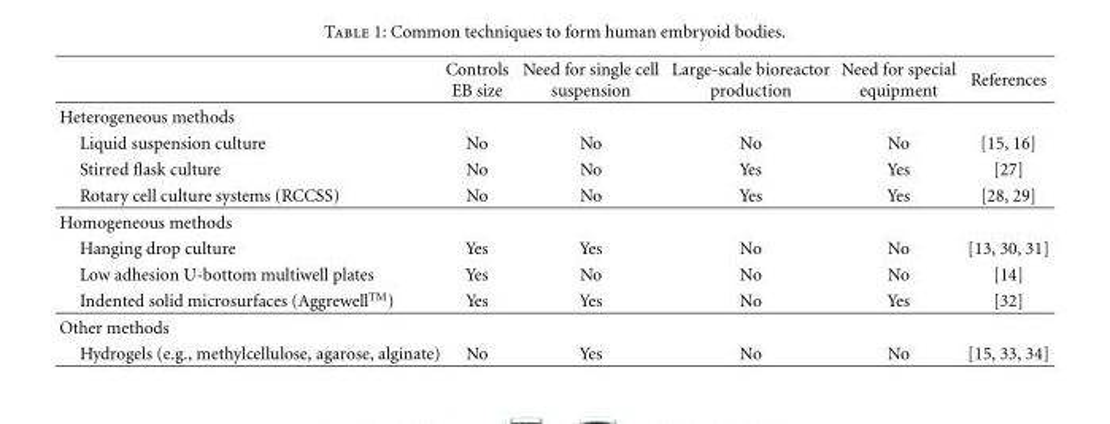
<table><thead><tr><td></td><td>Controls EB size</td><td>Need for single cell suspension</td><td>Large-scale bioreactor production</td><td>Need for special equipment</td><td>References</td></tr></thead><tbody><tr><td colspan="6">Heterogeneous methods</td></tr><tr><td>Liquid suspension culture</td><td>No</td><td>No</td><td>No</td><td>No</td><td>[15, 16]</td></tr><tr><td>Stirred flask culture</td><td>No</td><td>No</td><td>Yes</td><td>Yes</td><td>[27]</td></tr><tr><td>Rotary cell culture systems (RCCSS)</td><td>No</td><td>No</td><td>Yes</td><td>Yes</td><td>[28, 29]</td></tr><tr><td colspan="6">Homogeneous methods</td></tr><tr><td>Hanging drop culture</td><td>Yes</td><td>Yes</td><td>No</td><td>No</td><td>[13, 30, 31]</td></tr><tr><td>Low adhesion U-bottom multiwell plates</td><td>Yes</td><td>No</td><td>No</td><td>No</td><td>[14]</td></tr><tr><td>Indented solid microsurfaces (Aggrewell<sup>TM</sup>)</td><td>Yes</td><td>Yes</td><td>No</td><td>Yes</td><td>[32]</td></tr><tr><td colspan="6">Other methods</td></tr><tr><td>Hydrogels (e.g., methylcellulose, agarose, alginate)</td><td>No</td><td>Yes</td><td>No</td><td>No</td><td>[15, 33, 34]</td></tr></tbody></table>